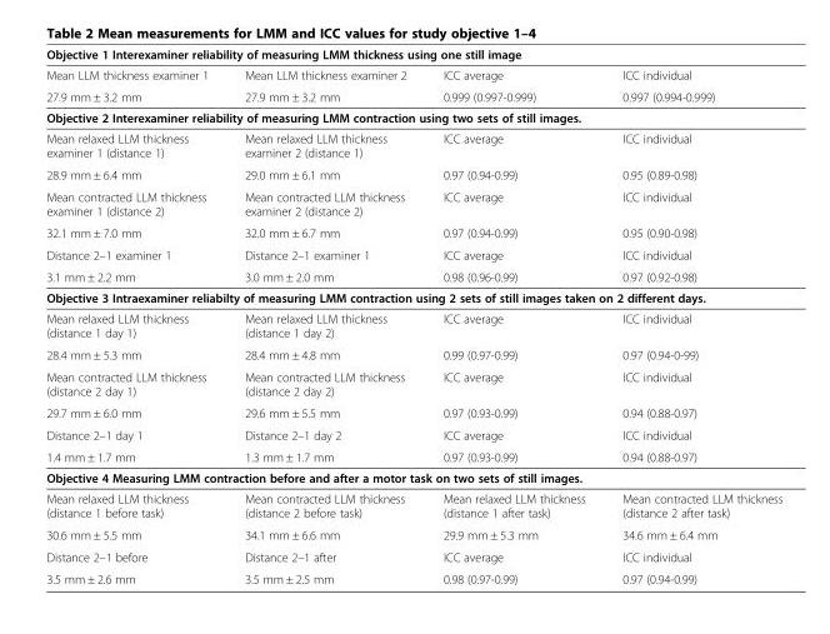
<table><thead><tr><td colspan="4">Objective 1 Interexaminer reliability of measuring LMM thickness using one still image</td></tr><tr><td>Mean LLM thickness examiner 1</td><td>Mean LLM thickness examiner 2</td><td>ICC average</td><td>ICC individual</td></tr></thead><tbody><tr><td>27.9 mm ± 3.2 mm</td><td>27.9 mm ± 3.2 mm</td><td>0.999 (0.997-0.999)</td><td>0.997 (0.994-0.999)</td></tr><tr><td colspan="4">Objective 2 Interexaminer reliability of measuring LMM contraction using two sets of still images.</td></tr><tr><td>Mean relaxed LLM thickness examiner 1 (distance 1)</td><td>Mean relaxed LLM thickness examiner 2 (distance 1)</td><td>ICC average</td><td>ICC individual</td></tr><tr><td>28.9 mm ± 6.4 mm</td><td>29.0 mm ± 6.1 mm</td><td>0.97 (0.94-0.99)</td><td>0.95 (0.89-0.98)</td></tr><tr><td>Mean contracted LLM thickness examiner 1 (distance 2)</td><td>Mean contracted LLM thickness examiner 2 (distance 2)</td><td>ICC average</td><td>ICC individual</td></tr><tr><td>32.1 mm ± 7.0 mm</td><td>32.0 mm ± 6.7 mm</td><td>0.97 (0.94-0.99)</td><td>0.95 (0.90-0.98)</td></tr><tr><td>Distance 2–1 examiner 1</td><td>Distance 2–1 examiner 1</td><td>ICC average</td><td>ICC individual</td></tr><tr><td>3.1 mm ± 2.2 mm</td><td>3.0 mm ± 2.0 mm</td><td>0.98 (0.96-0.99)</td><td>0.97 (0.92-0.98)</td></tr><tr><td colspan="4">Objective 3 Intraexaminer reliabilty of measuring LMM contraction using 2 sets of still images taken on 2 different days.</td></tr><tr><td>Mean relaxed LLM thickness (distance 1 day 1)</td><td>Mean relaxed LLM thickness (distance 1 day 2)</td><td>ICC average</td><td>ICC individual</td></tr><tr><td>28.4 mm ± 5.3 mm</td><td>28.4 mm ± 4.8 mm</td><td>0.99 (0.97-0.99)</td><td>0.97 (0.94-0-99)</td></tr><tr><td>Mean contracted LLM thickness (distance 2 day 1)</td><td>Mean contracted LLM thickness (distance 2 day 2)</td><td>ICC average</td><td>ICC individual</td></tr><tr><td>29.7 mm ± 6.0 mm</td><td>29.6 mm ± 5.5 mm</td><td>0.97 (0.93-0.99)</td><td>0.94 (0.88-0.97)</td></tr><tr><td>Distance 2–1 day 1</td><td>Distance 2–1 day 2</td><td>ICC average</td><td>ICC individual</td></tr><tr><td>1.4 mm ± 1.7 mm</td><td>1.3 mm ± 1.7 mm</td><td>0.97 (0.93-0.99)</td><td>0.94 (0.88-0.97)</td></tr><tr><td colspan="4">Objective 4 Measuring LMM contraction before and after a motor task on two sets of still images.</td></tr><tr><td>Mean relaxed LLM thickness (distance 1 before task)</td><td>Mean contracted LLM thickness (distance 2 before task)</td><td>Mean relaxed LLM thickness (distance 1 after task)</td><td>Mean contracted LLM thickness (distance 2 after task)</td></tr><tr><td>30.6 mm ± 5.5 mm</td><td>34.1 mm ± 6.6 mm</td><td>29.9 mm ± 5.3 mm</td><td>34.6 mm ± 6.4 mm</td></tr><tr><td>Distance 2–1 before</td><td>Distance 2–1 after</td><td>ICC average</td><td>ICC individual</td></tr><tr><td>3.5 mm ± 2.6 mm</td><td>3.5 mm ± 2.5 mm</td><td>0.98 (0.97-0.99)</td><td>0.97 (0.94-0.99)</td></tr></tbody></table>